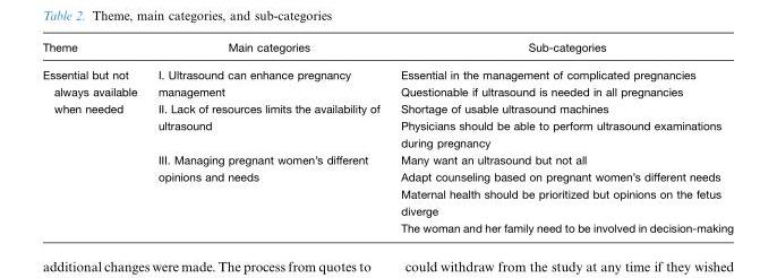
<table><thead><tr><td>Theme</td><td>Main categories</td><td>Sub-categories</td></tr></thead><tbody><tr><td>Essential but not</td><td>I. Ultrasound can enhance pregnancy</td><td>Essential in the management of complicated pregnancies</td></tr><tr><td>always available</td><td>management</td><td>Questionable if ultrasound is needed in all pregnancies</td></tr><tr><td rowspan="6">when needed</td><td>II. Lack of resources limits the availability of</td><td>Shortage of usable ultrasound machines</td></tr><tr><td>ultrasound</td><td>Physicians should be able to perform ultrasound examinations during pregnancy</td></tr><tr><td>III. Managing pregnant women’s different</td><td>Many want an ultrasound but not all</td></tr><tr><td>opinions and needs</td><td>Adapt counseling based on pregnant women’s different needs</td></tr><tr><td></td><td>Maternal health should be prioritized but opinions on the fetus diverge</td></tr><tr><td></td><td>The woman and her family need to be involved in decision-making</td></tr></tbody></table>